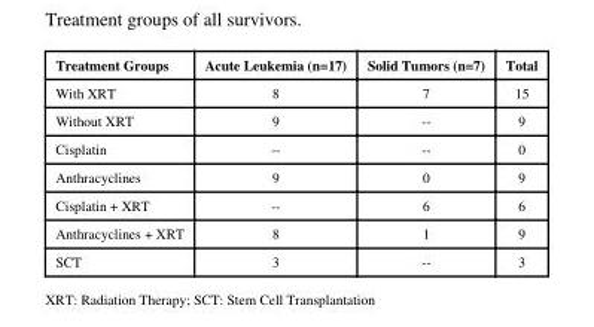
<table><thead><tr><td>Treatment Groups</td><td>Acute Leukemia (n=17)</td><td>Solid Tumors (n=7)</td><td>Total</td></tr></thead><tbody><tr><td>With XRT</td><td>8</td><td>7</td><td>15</td></tr><tr><td>Without XRT</td><td>9</td><td>--</td><td>9</td></tr><tr><td>Cisplatin</td><td>--</td><td>--</td><td>0</td></tr><tr><td>Anthracyclines</td><td>9</td><td>0</td><td>9</td></tr><tr><td>Cisplatin + XRT</td><td>--</td><td>6</td><td>6</td></tr><tr><td>Anthracyclines + XRT</td><td>8</td><td>1</td><td>9</td></tr><tr><td>SCT</td><td>3</td><td>--</td><td>3</td></tr></tbody></table>